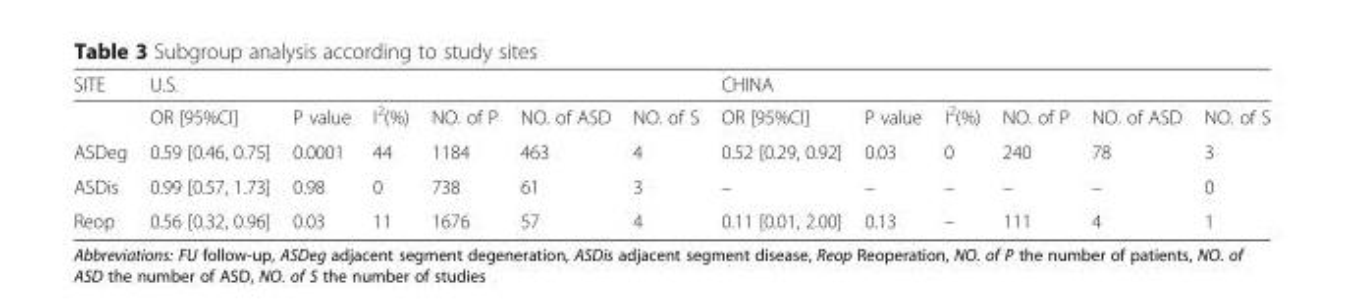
<table><thead><tr><td rowspan="2">SITE</td><td colspan="6">U.S.</td><td colspan="6">CHINA</td></tr><tr><td>OR [95%CI]</td><td>P value</td><td>I<sup>2</sup>(%)</td><td>NO. of P</td><td>NO. of ASD</td><td>NO. of S</td><td>OR [95%CI]</td><td>P value</td><td>I<sup>2</sup>(%)</td><td>NO. of P</td><td>NO. of ASD</td><td>NO. of S</td></tr></thead><tbody><tr><td>ASDeg</td><td>0.59 [0.46, 0.75]</td><td>0.0001</td><td>44</td><td>1184</td><td>463</td><td>4</td><td>0.52 [0.29, 0.92]</td><td>0.03</td><td>0</td><td>240</td><td>78</td><td>3</td></tr><tr><td>ASDis</td><td>0.99 [0.57, 1.73]</td><td>0.98</td><td>0</td><td>738</td><td>61</td><td>3</td><td>–</td><td>–</td><td>–</td><td>–</td><td>–</td><td>0</td></tr><tr><td>Reop</td><td>0.56 [0.32, 0.96]</td><td>0.03</td><td>11</td><td>1676</td><td>57</td><td>4</td><td>0.11 [0.01, 2.00]</td><td>0.13</td><td>–</td><td>111</td><td>4</td><td>1</td></tr></tbody></table>